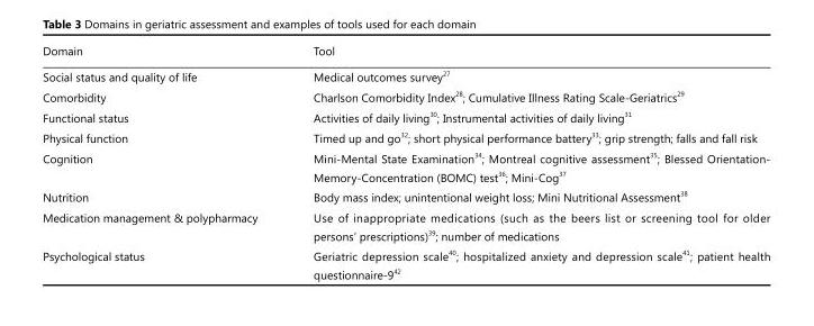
<table><thead><tr><td>Domain</td><td>Tool</td></tr></thead><tbody><tr><td>Social status and quality of life</td><td>Medical outcomes survey <sup>27</sup></td></tr><tr><td>Comorbidity</td><td>Charlson Comorbidity Index <sup>28</sup>; Cumulative Illness Rating Scale-Geriatrics <sup>29</sup></td></tr><tr><td>Functional status</td><td>Activities of daily living <sup>30</sup>; Instrumental activities of daily living <sup>31</sup></td></tr><tr><td>Physical function</td><td>Timed up and go <sup>32</sup>; short physical performance battery <sup>33</sup>; grip strength; falls and fall risk</td></tr><tr><td>Cognition</td><td>Mini-Mental State Examination <sup>34</sup>; Montreal cognitive assessment <sup>35</sup>; Blessed Orientation- Memory-Concentration (BOMC) test <sup>36</sup>; Mini-Cog <sup>37</sup></td></tr><tr><td>Nutrition</td><td>Body mass index; unintentional weight loss; Mini Nutritional Assessment <sup>38</sup></td></tr><tr><td>Medication management &amp; polypharmacy</td><td>Use of inappropriate medications (such as the beers list or screening tool for older persons’ prescriptions) <sup>39</sup>; number of medications</td></tr><tr><td>Psychological status</td><td>Geriatric depression scale <sup>40</sup>; hospitalized anxiety and depression scale <sup>41</sup>; patient health questionnaire-9 <sup>42</sup></td></tr></tbody></table>